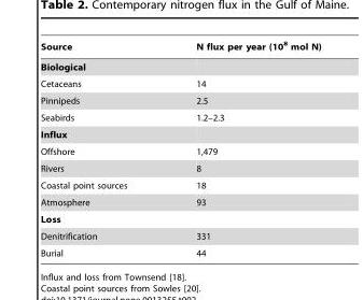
<table><thead><tr><td>Source</td><td>N flux per year (10<sup>8</sup> mol N)</td></tr></thead><tbody><tr><td colspan="2">Biological</td></tr><tr><td>Cetaceans</td><td>14</td></tr><tr><td>Pinnipeds</td><td>2.5</td></tr><tr><td>Seabirds</td><td>1.2–2.3</td></tr><tr><td colspan="2">Influx</td></tr><tr><td>Offshore</td><td>1,479</td></tr><tr><td>Rivers</td><td>8</td></tr><tr><td>Coastal point sources</td><td>18</td></tr><tr><td>Atmosphere</td><td>93</td></tr><tr><td colspan="2">Loss</td></tr><tr><td>Denitrification</td><td>331</td></tr><tr><td>Burial</td><td>44</td></tr></tbody></table>